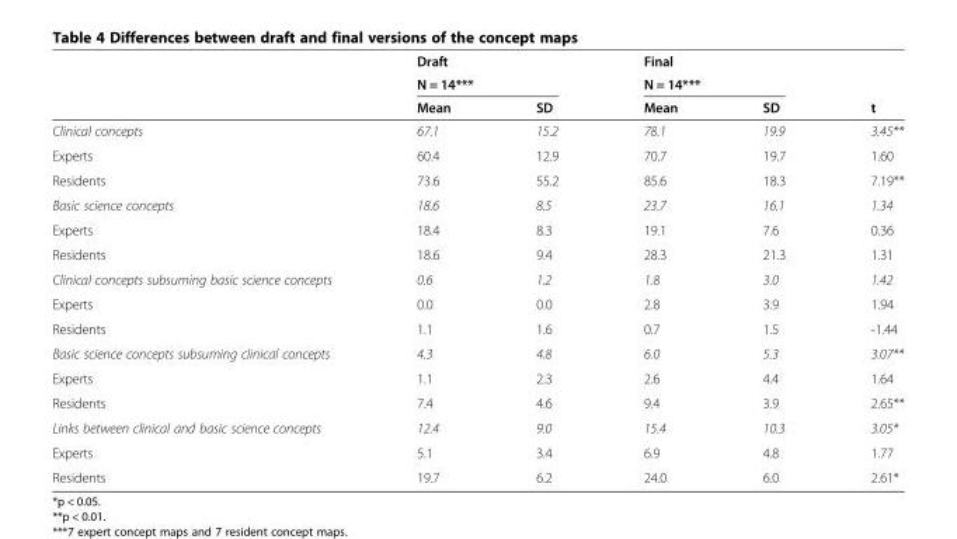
<table><thead><tr><td rowspan="3"></td><td rowspan="2" colspan="2">Draft N = 14***</td><td rowspan="2" colspan="2">Final N = 14***</td><td rowspan="3">t</td></tr><tr></tr><tr><td>Mean</td><td>SD</td><td>Mean</td><td>SD</td></tr></thead><tbody><tr><td>Clinical concepts</td><td>67.1</td><td>15.2</td><td>78.1</td><td>19.9</td><td>3.45**</td></tr><tr><td>Experts</td><td>60.4</td><td>12.9</td><td>70.7</td><td>19.7</td><td>1.60</td></tr><tr><td>Residents</td><td>73.6</td><td>55.2</td><td>85.6</td><td>18.3</td><td>7.19**</td></tr><tr><td>Basic science concepts</td><td>18.6</td><td>8.5</td><td>23.7</td><td>16.1</td><td>1.34</td></tr><tr><td>Experts</td><td>18.4</td><td>8.3</td><td>19.1</td><td>7.6</td><td>0.36</td></tr><tr><td>Residents</td><td>18.6</td><td>9.4</td><td>28.3</td><td>21.3</td><td>1.31</td></tr><tr><td>Clinical concepts subsuming basic science concepts</td><td>0.6</td><td>1.2</td><td>1.8</td><td>3.0</td><td>1.42</td></tr><tr><td>Experts</td><td>0.0</td><td>0.0</td><td>2.8</td><td>3.9</td><td>1.94</td></tr><tr><td>Residents</td><td>1.1</td><td>1.6</td><td>0.7</td><td>1.5</td><td>-1.44</td></tr><tr><td>Basic science concepts subsuming clinical concepts</td><td>4.3</td><td>4.8</td><td>6.0</td><td>5.3</td><td>3.07**</td></tr><tr><td>Experts</td><td>1.1</td><td>2.3</td><td>2.6</td><td>4.4</td><td>1.64</td></tr><tr><td>Residents</td><td>7.4</td><td>4.6</td><td>9.4</td><td>3.9</td><td>2.65**</td></tr><tr><td>Links between clinical and basic science concepts</td><td>12.4</td><td>9.0</td><td>15.4</td><td>10.3</td><td>3.05*</td></tr><tr><td>Experts</td><td>5.1</td><td>3.4</td><td>6.9</td><td>4.8</td><td>1.77</td></tr><tr><td>Residents</td><td>19.7</td><td>6.2</td><td>24.0</td><td>6.0</td><td>2.61*</td></tr></tbody></table>